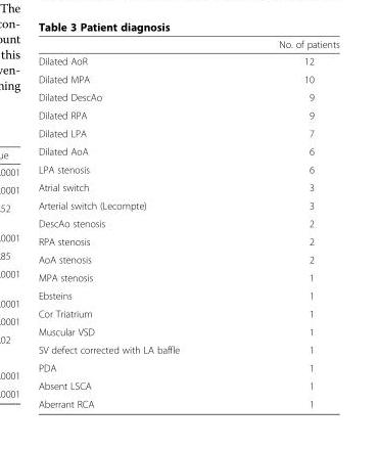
<table><thead><tr><td></td><td>No. of patients</td></tr></thead><tbody><tr><td>Dilated AoR</td><td>12</td></tr><tr><td>Dilated MPA</td><td>10</td></tr><tr><td>Dilated DescAo</td><td>9</td></tr><tr><td>Dilated RPA</td><td>9</td></tr><tr><td>Dilated LPA</td><td>7</td></tr><tr><td>Dilated AoA</td><td>6</td></tr><tr><td>LPA stenosis</td><td>6</td></tr><tr><td>Atrial switch</td><td>3</td></tr><tr><td>Arterial switch (Lecompte)</td><td>3</td></tr><tr><td>DescAo stenosis</td><td>2</td></tr><tr><td>RPA stenosis</td><td>2</td></tr><tr><td>AoA stenosis</td><td>2</td></tr><tr><td>MPA stenosis</td><td>1</td></tr><tr><td>Ebsteins</td><td>1</td></tr><tr><td>Cor Triatrium</td><td>1</td></tr><tr><td>Muscular VSD</td><td>1</td></tr><tr><td>SV defect corrected with LA baffle</td><td>1</td></tr><tr><td>PDA</td><td>1</td></tr><tr><td>Absent LSCA</td><td>1</td></tr><tr><td>Aberrant RCA</td><td>1</td></tr></tbody></table>